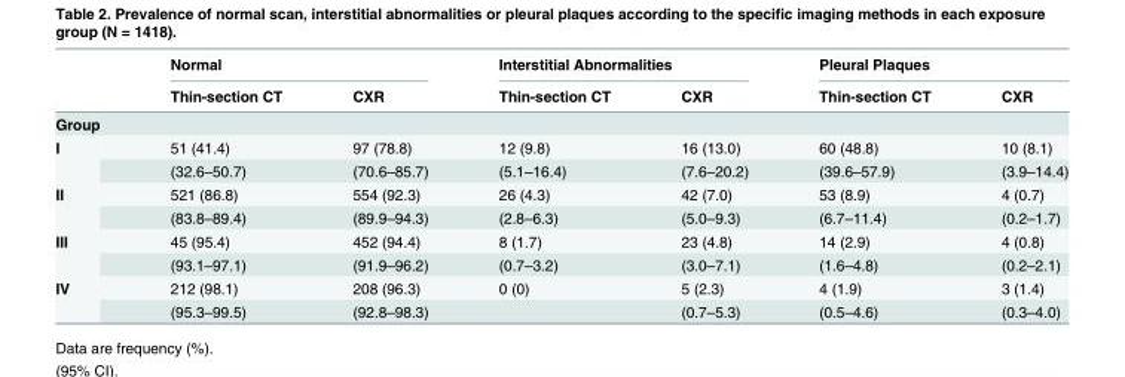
<table><thead><tr><td rowspan="2"></td><td colspan="2">Normal</td><td colspan="2">Interstitial Abnormalities</td><td colspan="2">Pleural Plaques</td></tr><tr><td>Thin-section CT</td><td>CXR</td><td>Thin-section CT</td><td>CXR</td><td>Thin-section CT</td><td>CXR</td></tr></thead><tbody><tr><td colspan="7">Group</td></tr><tr><td rowspan="2">I</td><td>51 (41.4)</td><td>97 (78.8)</td><td>12 (9.8)</td><td>16 (13.0)</td><td>60 (48.8)</td><td>10 (8.1)</td></tr><tr><td>(32.6–50.7)</td><td>(70.6–85.7)</td><td>(5.1–16.4)</td><td>(7.6–20.2)</td><td>(39.6–57.9)</td><td>(3.9–14.4)</td></tr><tr><td rowspan="2">II</td><td>521 (86.8)</td><td>554 (92.3)</td><td>26 (4.3)</td><td>42 (7.0)</td><td>53 (8.9)</td><td>4 (0.7)</td></tr><tr><td>(83.8–89.4)</td><td>(89.9–94.3)</td><td>(2.8–6.3)</td><td>(5.0–9.3)</td><td>(6.7–11.4)</td><td>(0.2–1.7)</td></tr><tr><td rowspan="2">III</td><td>45 (95.4)</td><td>452 (94.4)</td><td>8 (1.7)</td><td>23 (4.8)</td><td>14 (2.9)</td><td>4 (0.8)</td></tr><tr><td>(93.1–97.1)</td><td>(91.9–96.2)</td><td>(0.7–3.2)</td><td>(3.0–7.1)</td><td>(1.6–4.8)</td><td>(0.2–2.1)</td></tr><tr><td rowspan="2">IV</td><td>212 (98.1)</td><td>208 (96.3)</td><td>0 (0)</td><td>5 (2.3)</td><td>4 (1.9)</td><td>3 (1.4)</td></tr><tr><td>(95.3–99.5)</td><td>(92.8–98.3)</td><td></td><td>(0.7–5.3)</td><td>(0.5–4.6)</td><td>(0.3–4.0)</td></tr></tbody></table>